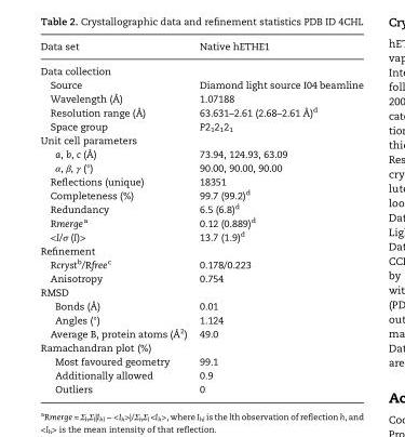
<table><thead><tr><td>Data set</td><td>Native hETHE1</td></tr></thead><tbody><tr><td colspan="2">Data collection</td></tr><tr><td>Source</td><td>Diamond light source I04 beamline</td></tr><tr><td>Wavelength (Å)</td><td>1.07188</td></tr><tr><td>Resolution range (Å)</td><td>63.631–2.61 (2.68–2.61 Å)<sup>d</sup></td></tr><tr><td>Space group</td><td>P2<sub>1</sub>2<sub>1</sub>2<sub>1</sub></td></tr><tr><td colspan="2">Unit cell parameters</td></tr><tr><td>a, b, c (Å)</td><td>73.94, 124.93, 63.09</td></tr><tr><td>α, β, γ (°)</td><td>90.00, 90.00, 90.00</td></tr><tr><td>Reflections (unique)</td><td>18351</td></tr><tr><td>Completeness (%)</td><td>99.7 (99.2)<sup>d</sup></td></tr><tr><td>Redundancy</td><td>6.5 (6.8)<sup>d</sup></td></tr><tr><td>Rmerge<sup>a</sup></td><td>0.12 (0.889)<sup>d</sup></td></tr><tr><td>&lt;I/σ (I)&gt;</td><td>13.7 (1.9)<sup>d</sup></td></tr><tr><td colspan="2">Refinement</td></tr><tr><td>Rcryst<sup>b</sup>/Rfree<sup>c</sup></td><td>0.178/0.223</td></tr><tr><td>Anisotropy</td><td>0.754</td></tr><tr><td colspan="2">RMSD</td></tr><tr><td>Bonds (Å)</td><td>0.01</td></tr><tr><td>Angles (°)</td><td>1.124</td></tr><tr><td>Average B, protein atoms (Å<sup>2</sup>)</td><td>49.0</td></tr><tr><td colspan="2">Ramachandran plot (%)</td></tr><tr><td>Most favoured geometry</td><td>99.1</td></tr><tr><td>Additionally allowed</td><td>0.9</td></tr><tr><td>Outliers</td><td>0</td></tr></tbody></table>